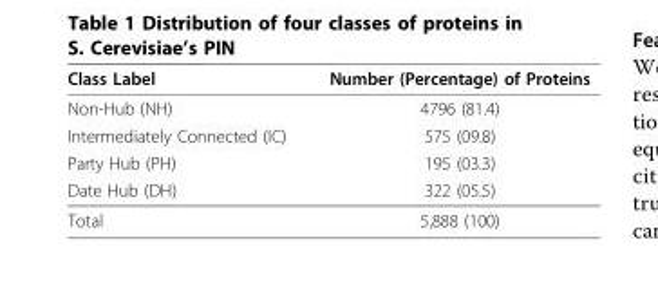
<table><thead><tr><td>Class Label</td><td>Number (Percentage) of Proteins</td></tr></thead><tbody><tr><td>Non-Hub (NH)</td><td>4796 (81.4)</td></tr><tr><td>Intermediately Connected (IC)</td><td>575 (09.8)</td></tr><tr><td>Party Hub (PH)</td><td>195 (03.3)</td></tr><tr><td>Date Hub (DH)</td><td>322 (05.5)</td></tr><tr><td>Total</td><td>5,888 (100)</td></tr></tbody></table>